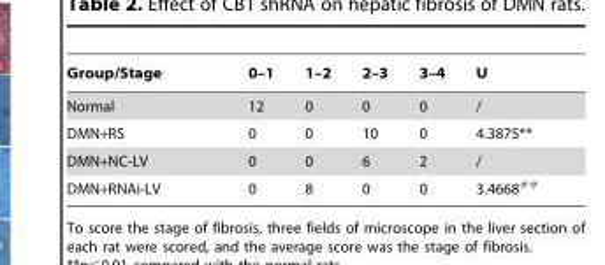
<table><thead><tr><td>Group/Stage</td><td>0–1</td><td>1–2</td><td>2–3</td><td>3–4</td><td>U</td></tr></thead><tbody><tr><td>Normal</td><td>12</td><td>0</td><td>0</td><td>0</td><td>/</td></tr><tr><td>DMN+RS</td><td>0</td><td>0</td><td>10</td><td>0</td><td>4.3875**</td></tr><tr><td>DMN+NC-LV</td><td>0</td><td>0</td><td>6</td><td>2</td><td>/</td></tr><tr><td>DMN+RNAi-LV</td><td>0</td><td>8</td><td>0</td><td>0</td><td>3.4668##</td></tr></tbody></table>